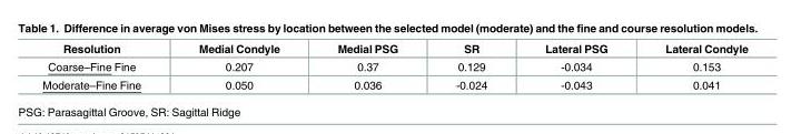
<table><thead><tr><td>Resolution</td><td>Medial Condyle</td><td>Medial PSG</td><td>SR</td><td>Lateral PSG</td><td>Lateral Condyle</td></tr></thead><tbody><tr><td>Coarse–Fine Fine</td><td>0.207</td><td>0.37</td><td>0.129</td><td>-0.034</td><td>0.153</td></tr><tr><td>Moderate–Fine Fine</td><td>0.050</td><td>0.036</td><td>-0.024</td><td>-0.043</td><td>0.041</td></tr></tbody></table>